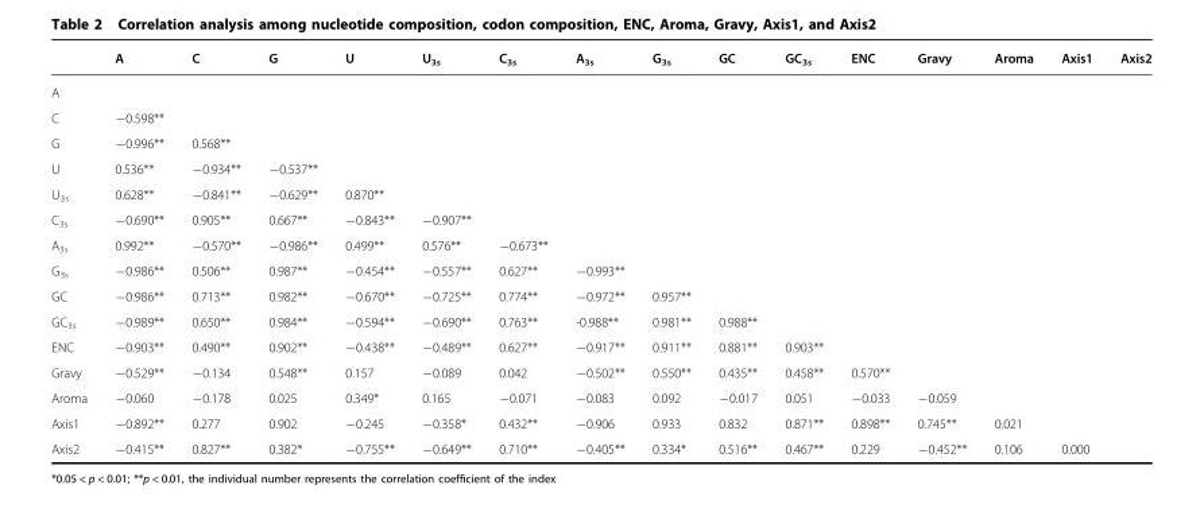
<table><thead><tr><td></td><td>A</td><td>C</td><td>G</td><td>U</td><td>U<sub>3s</sub></td><td>C<sub>3s</sub></td><td>A<sub>3s</sub></td><td>G<sub>3s</sub></td><td>GC</td><td>GC<sub>3s</sub></td><td>ENC</td><td>Gravy</td><td>Aroma</td><td>Axis1</td><td>Axis2</td></tr></thead><tbody><tr><td colspan="16">A</td></tr><tr><td>C</td><td>−0.598**</td><td></td><td></td><td></td><td></td><td></td><td></td><td></td><td></td><td></td><td></td><td></td><td></td><td></td><td></td></tr><tr><td>G</td><td>−0.996**</td><td>0.568**</td><td></td><td></td><td></td><td></td><td></td><td></td><td></td><td></td><td></td><td></td><td></td><td></td><td></td></tr><tr><td>U</td><td>0.536**</td><td>−0.934**</td><td>−0.537**</td><td></td><td></td><td></td><td></td><td></td><td></td><td></td><td></td><td></td><td></td><td></td><td></td></tr><tr><td>U<sub>3s</sub></td><td>0.628**</td><td>−0.841**</td><td>−0.629**</td><td>0.870**</td><td></td><td></td><td></td><td></td><td></td><td></td><td></td><td></td><td></td><td></td><td></td></tr><tr><td>C<sub>3s</sub></td><td>−0.690**</td><td>0.905**</td><td>0.667**</td><td>−0.843**</td><td>−0.907**</td><td></td><td></td><td></td><td></td><td></td><td></td><td></td><td></td><td></td><td></td></tr><tr><td>A<sub>3s</sub></td><td>0.992**</td><td>−0.570**</td><td>−0.986**</td><td>0.499**</td><td>0.576**</td><td>−0.673**</td><td></td><td></td><td></td><td></td><td></td><td></td><td></td><td></td><td></td></tr><tr><td>G<sub>3s</sub></td><td>−0.986**</td><td>0.506**</td><td>0.987**</td><td>−0.454**</td><td>−0.557**</td><td>0.627**</td><td>−0.993**</td><td></td><td></td><td></td><td></td><td></td><td></td><td></td><td></td></tr><tr><td>GC</td><td>−0.986**</td><td>0.713**</td><td>0.982**</td><td>−0.670**</td><td>−0.725**</td><td>0.774**</td><td>−0.972**</td><td>0.957**</td><td></td><td></td><td></td><td></td><td></td><td></td><td></td></tr><tr><td>GC<sub>3s</sub></td><td>−0.989**</td><td>0.650**</td><td>0.984**</td><td>−0.594**</td><td>−0.690**</td><td>0.763**</td><td>-0.988**</td><td>0.981**</td><td>0.988**</td><td></td><td></td><td></td><td></td><td></td><td></td></tr><tr><td>ENC</td><td>−0.903**</td><td>0.490**</td><td>0.902**</td><td>−0.438**</td><td>−0.489**</td><td>0.627**</td><td>−0.917**</td><td>0.911**</td><td>0.881**</td><td>0.903**</td><td></td><td></td><td></td><td></td><td></td></tr><tr><td>Gravy</td><td>−0.529**</td><td>−0.134</td><td>0.548**</td><td>0.157</td><td>−0.089</td><td>0.042</td><td>−0.502**</td><td>0.550**</td><td>0.435**</td><td>0.458**</td><td>0.570**</td><td></td><td></td><td></td><td></td></tr><tr><td>Aroma</td><td>−0.060</td><td>−0.178</td><td>0.025</td><td>0.349*</td><td>0.165</td><td>−0.071</td><td>−0.083</td><td>0.092</td><td>−0.017</td><td>0.051</td><td>−0.033</td><td>−0.059</td><td></td><td></td><td></td></tr><tr><td>Axis1</td><td>−0.892**</td><td>0.277</td><td>0.902</td><td>−0.245</td><td>−0.358*</td><td>0.432**</td><td>−0.906</td><td>0.933</td><td>0.832</td><td>0.871**</td><td>0.898**</td><td>0.745**</td><td>0.021</td><td></td><td></td></tr><tr><td>Axis2</td><td>−0.415**</td><td>0.827**</td><td>0.382*</td><td>−0.755**</td><td>−0.649**</td><td>0.710**</td><td>−0.405**</td><td>0.334*</td><td>0.516**</td><td>0.467**</td><td>0.229</td><td>−0.452**</td><td>0.106</td><td>0.000</td><td></td></tr></tbody></table>